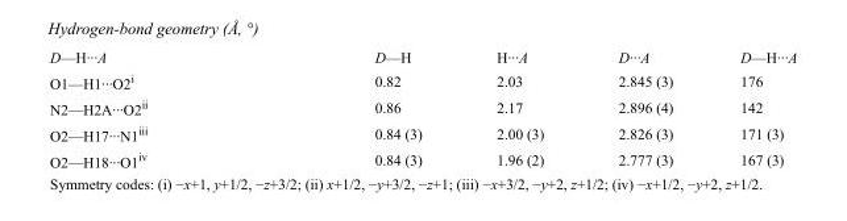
<table><tbody><tr><td>D—H···A</td><td>D—H</td><td>H···A</td><td>D···A</td><td>D—H···A</td></tr><tr><td>O1—H1···O2<sup>i</sup></td><td>0.82</td><td>2.03</td><td>2.845 (3)</td><td>176</td></tr><tr><td>N2—H2A···O2<sup>ii</sup></td><td>0.86</td><td>2.17</td><td>2.896 (4)</td><td>142</td></tr><tr><td>O2—H17···N1<sup>iii</sup></td><td>0.84 (3)</td><td>2.00 (3)</td><td>2.826 (3)</td><td>171 (3)</td></tr><tr><td>O2—H18···O1<sup>iv</sup></td><td>0.84 (3)</td><td>1.96 (2)</td><td>2.777 (3)</td><td>167 (3)</td></tr></tbody></table>